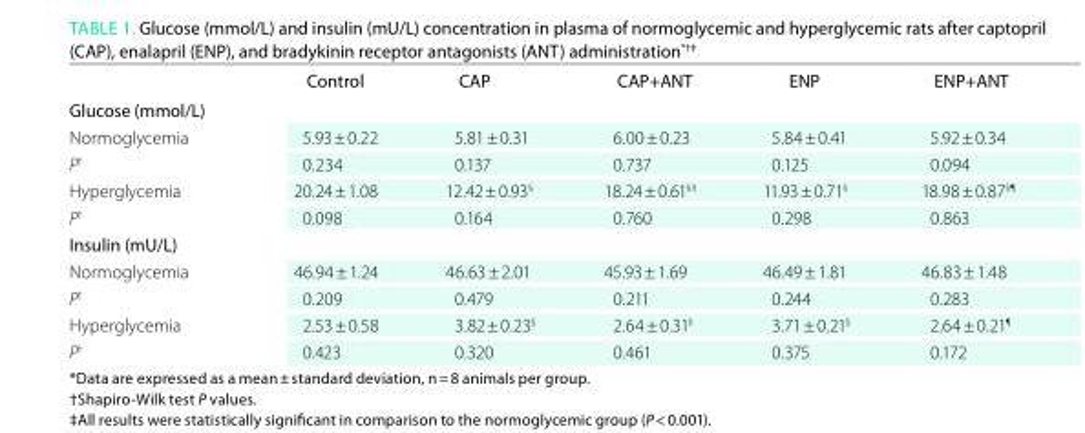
<table><thead><tr><td></td><td>Control</td><td>CAP</td><td>CAP+ANt</td><td>ENP</td><td>ENP+ANt</td></tr></thead><tbody><tr><td colspan="6">Glucose (mmol/l)</td></tr><tr><td>Normoglycemia</td><td>5.93 ± 0.22</td><td>5.81 ± 0.31</td><td>6.00 ± 0.23</td><td>5.84 ± 0.41</td><td>5.92 ± 0.34</td></tr><tr><td>P<sup>†</sup></td><td>0.234</td><td>0.137</td><td>0.737</td><td>0.125</td><td>0.094</td></tr><tr><td>Hyperglycemia</td><td>20.24 ± 1.08</td><td>12.42 ± 0.93<sup>§</sup></td><td>18.24 ± 0.61§II</td><td>11.93 ± 0.71<sup>§</sup></td><td>18.98 ± 0.87<sup>§¶</sup></td></tr><tr><td>P<sup>†</sup></td><td>0.098</td><td>0.164</td><td>0.760</td><td>0.298</td><td>0.863</td></tr><tr><td colspan="6">insulin (mu/l)</td></tr><tr><td>Normoglycemia</td><td>46.94 ± 1.24</td><td>46.63 ± 2.01</td><td>45.93 ± 1.69</td><td>46.49 ± 1.81</td><td>46.83 ± 1.48</td></tr><tr><td>P<sup>†</sup></td><td>0.209</td><td>0.479</td><td>0.211</td><td>0.244</td><td>0.283</td></tr><tr><td>Hyperglycemia</td><td>2.53 ± 0.58</td><td>3.82 ± 0.23<sup>§</sup></td><td>2.64 ± 0.31II</td><td>3.71 ± 0.21<sup>§</sup></td><td>2.64 ± 0.21<sup>¶</sup></td></tr><tr><td>P<sup>†</sup></td><td>0.423</td><td>0.320</td><td>0.461</td><td>0.375</td><td>0.172</td></tr></tbody></table>